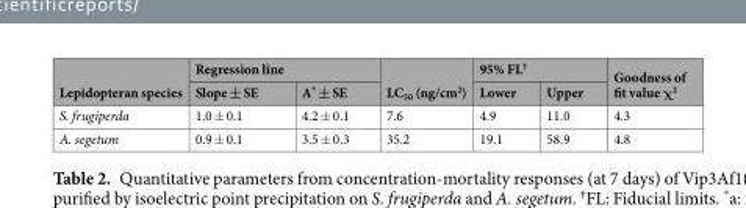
<table><thead><tr><td rowspan="2">Lepidopteran species</td><td colspan="2">Regression line</td><td rowspan="2">LC<sub>50</sub> (ng/cm<sup>2</sup>)</td><td colspan="2">95% FL<sup>†</sup></td><td rowspan="2">Goodness of fit value χ<sup>2</sup></td></tr><tr><td>Slope ± SE</td><td>A* ± SE</td><td>Lower</td><td>Upper</td></tr></thead><tbody><tr><td>S. frugiperda</td><td>1.0 ± 0.1</td><td>4.2 ± 0.1</td><td>7.6</td><td>4.9</td><td>11.0</td><td>4.3</td></tr><tr><td>A. segetum</td><td>0.9 ± 0.1</td><td>3.5 ± 0.3</td><td>35.2</td><td>19.1</td><td>58.9</td><td>4.8</td></tr></tbody></table>